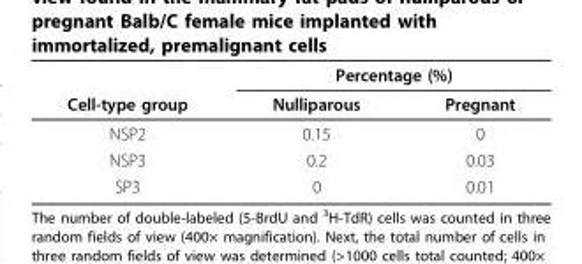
<table><thead><tr><td rowspan="2">Cell-type group</td><td colspan="2">Percentage (%)</td></tr><tr><td>Nulliparous</td><td>Pregnant</td></tr></thead><tbody><tr><td>NSP2</td><td>0.15</td><td>0</td></tr><tr><td>NSP3</td><td>0.2</td><td>0.03</td></tr><tr><td>SP3</td><td>0</td><td>0.01</td></tr></tbody></table>